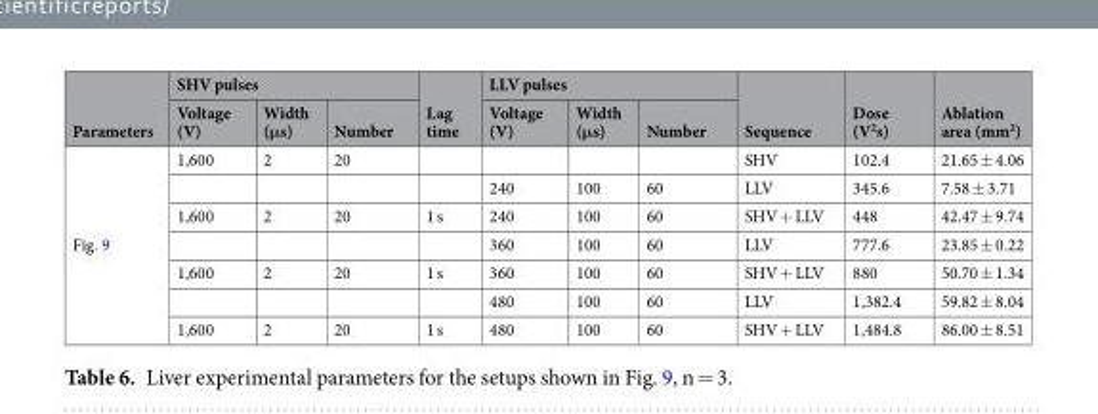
<table><thead><tr><td rowspan="2">Parameters</td><td colspan="3">SHV pulses</td><td rowspan="2">Lag time</td><td colspan="3">LLV pulses</td><td rowspan="2">Sequence</td><td rowspan="2">Dose (V<sup>2</sup>s)</td><td rowspan="2">Ablation area (mm<sup>2</sup>)</td></tr><tr><td>Voltage (V)</td><td>Width (μs)</td><td>Number</td><td>Voltage (V)</td><td>Width (μs)</td><td>Number</td></tr></thead><tbody><tr><td rowspan="7">Fig. 9</td><td>1,600</td><td>2</td><td>20</td><td></td><td></td><td></td><td></td><td>SHV</td><td>102.4</td><td>21.65 ± 4.06</td></tr><tr><td></td><td></td><td></td><td></td><td>240</td><td>100</td><td>60</td><td>LLV</td><td>345.6</td><td>7.58 ± 3.71</td></tr><tr><td>1,600</td><td>2</td><td>20</td><td>1 s</td><td>240</td><td>100</td><td>60</td><td>SHV + LLV</td><td>448</td><td>42.47 ± 9.74</td></tr><tr><td></td><td></td><td></td><td></td><td>360</td><td>100</td><td>60</td><td>LLV</td><td>777.6</td><td>23.85 ± 0.22</td></tr><tr><td>1,600</td><td>2</td><td>20</td><td>1 s</td><td>360</td><td>100</td><td>60</td><td>SHV + LLV</td><td>880</td><td>50.70 ± 1.34</td></tr><tr><td></td><td></td><td></td><td></td><td>480</td><td>100</td><td>60</td><td>LLV</td><td>1,382.4</td><td>59.82 ± 8.04</td></tr><tr><td>1,600</td><td>2</td><td>20</td><td>1 s</td><td>480</td><td>100</td><td>60</td><td>SHV + LLV</td><td>1,484.8</td><td>86.00 ± 8.51</td></tr></tbody></table>